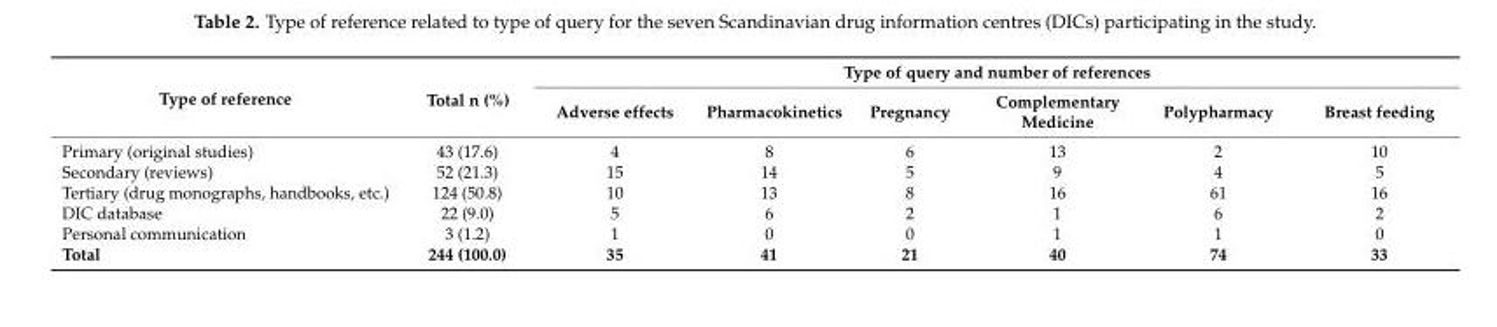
<table><thead><tr><td rowspan="2">Type of reference</td><td rowspan="2">Total n (%)</td><td colspan="6">Type of query and number of references</td></tr><tr><td>Adverse effects</td><td>Pharmacokinetics</td><td>Pregnancy</td><td>Complementary Medicine</td><td>Polypharmacy</td><td>Breast feeding</td></tr></thead><tbody><tr><td>Primary (original studies)</td><td>43 (17.6)</td><td>4</td><td>8</td><td>6</td><td>13</td><td>2</td><td>10</td></tr><tr><td>Secondary (reviews)</td><td>52 (21.3)</td><td>15</td><td>14</td><td>5</td><td>9</td><td>4</td><td>5</td></tr><tr><td>Tertiary (drug monographs, handbooks, etc.)</td><td>124 (50.8)</td><td>10</td><td>13</td><td>8</td><td>16</td><td>61</td><td>16</td></tr><tr><td>DIC database</td><td>22 (9.0)</td><td>5</td><td>6</td><td>2</td><td>1</td><td>6</td><td>2</td></tr><tr><td>Personal communication</td><td>3 (1.2)</td><td>1</td><td>0</td><td>0</td><td>1</td><td>1</td><td>0</td></tr><tr><td>Total</td><td>244 (100.0)</td><td>35</td><td>41</td><td>21</td><td>40</td><td>74</td><td>33</td></tr></tbody></table>